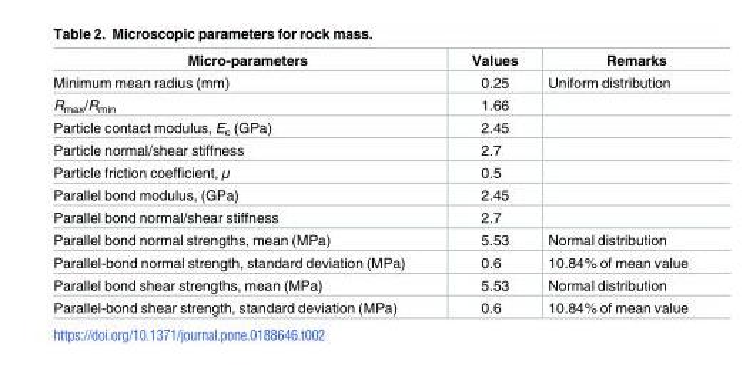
<table><thead><tr><td>Micro-parameters</td><td>Values</td><td>Remarks</td></tr></thead><tbody><tr><td>Minimum mean radius (mm)</td><td>0.25</td><td>Uniform distribution</td></tr><tr><td>R<sub>max</sub>/R<sub>min</sub></td><td>1.66</td><td></td></tr><tr><td>Particle contact modulus, E<sub>c</sub> (GPa)</td><td>2.45</td><td></td></tr><tr><td>Particle normal/shear stiffness</td><td>2.7</td><td></td></tr><tr><td>Particle friction coefficient, μ</td><td>0.5</td><td></td></tr><tr><td>Parallel bond modulus, (GPa)</td><td>2.45</td><td></td></tr><tr><td>Parallel bond normal/shear stiffness</td><td>2.7</td><td></td></tr><tr><td>Parallel bond normal strengths, mean (MPa)</td><td>5.53</td><td>Normal distribution</td></tr><tr><td>Parallel-bond normal strength, standard deviation (MPa)</td><td>0.6</td><td>10.84% of mean value</td></tr><tr><td>Parallel bond shear strengths, mean (MPa)</td><td>5.53</td><td>Normal distribution</td></tr><tr><td>Parallel-bond shear strength, standard deviation (MPa)</td><td>0.6</td><td>10.84% of mean value</td></tr></tbody></table>